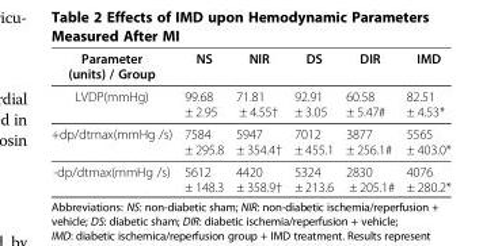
<table><thead><tr><td>Parameter (units) / Group</td><td>NS</td><td>NIR</td><td>DS</td><td>DIR</td><td>IMD</td></tr></thead><tbody><tr><td>LVDP(mmHg)</td><td>99.68 ± 2.95</td><td>71.81 ± 4.55†</td><td>92.91 ± 3.05</td><td>60.58 ± 5.47#</td><td>82.51 ± 4.53*</td></tr><tr><td>+dp/dtmax(mmHg /s)</td><td>7584 ± 295.8</td><td>5947 ± 354.4†</td><td>7012 ± 455.1</td><td>3877 ± 256.1#</td><td>5565 ± 403.0*</td></tr><tr><td>-dp/dtmax(mmHg /s)</td><td>5612 ± 148.3</td><td>4420 ± 358.9†</td><td>5324 ± 213.6</td><td>2830 ± 205.1#</td><td>4076 ± 280.2*</td></tr></tbody></table>